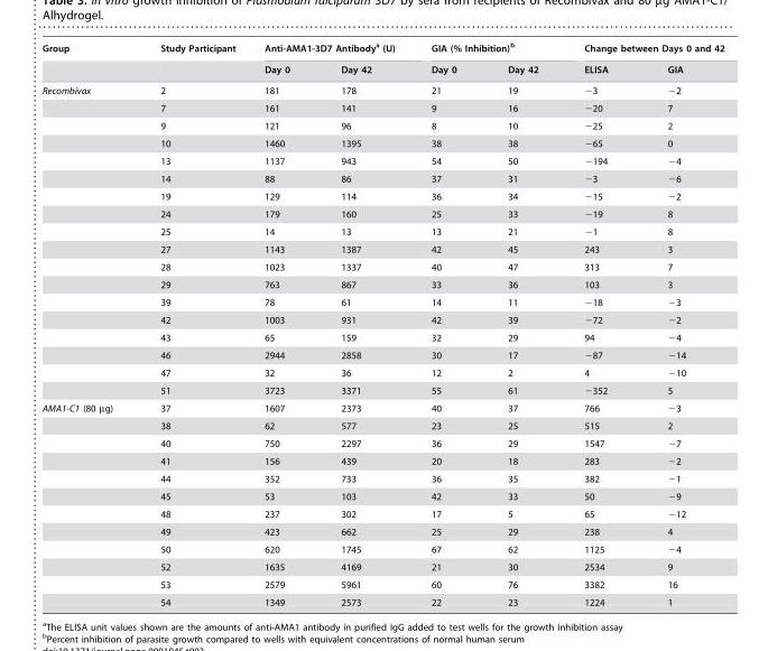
<table><thead><tr><td rowspan="2">Group</td><td rowspan="2">Study Participant</td><td colspan="2">Anti-AMA1-3D7 Antibody<sup>a</sup> (U)</td><td colspan="2">GIA (% Inhibition)<sup>b</sup></td><td colspan="2">Change between Days 0 and 42</td></tr><tr><td>Day 0</td><td>Day 42</td><td>Day 0</td><td>Day 42</td><td>ELISA</td><td>GIA</td></tr></thead><tbody><tr><td rowspan="18">Recombivax</td><td>2</td><td>181</td><td>178</td><td>21</td><td>19</td><td>−3</td><td>−2</td></tr><tr><td>7</td><td>161</td><td>141</td><td>9</td><td>16</td><td>−20</td><td>7</td></tr><tr><td>9</td><td>121</td><td>96</td><td>8</td><td>10</td><td>−25</td><td>2</td></tr><tr><td>10</td><td>1460</td><td>1395</td><td>38</td><td>38</td><td>−65</td><td>0</td></tr><tr><td>13</td><td>1137</td><td>943</td><td>54</td><td>50</td><td>−194</td><td>−4</td></tr><tr><td>14</td><td>88</td><td>86</td><td>37</td><td>31</td><td>−3</td><td>−6</td></tr><tr><td>19</td><td>129</td><td>114</td><td>36</td><td>34</td><td>−15</td><td>−2</td></tr><tr><td>24</td><td>179</td><td>160</td><td>25</td><td>33</td><td>−19</td><td>8</td></tr><tr><td>25</td><td>14</td><td>13</td><td>13</td><td>21</td><td>−1</td><td>8</td></tr><tr><td>27</td><td>1143</td><td>1387</td><td>42</td><td>45</td><td>243</td><td>3</td></tr><tr><td>28</td><td>1023</td><td>1337</td><td>40</td><td>47</td><td>313</td><td>7</td></tr><tr><td>29</td><td>763</td><td>867</td><td>33</td><td>36</td><td>103</td><td>3</td></tr><tr><td>39</td><td>78</td><td>61</td><td>14</td><td>11</td><td>−18</td><td>−3</td></tr><tr><td>42</td><td>1003</td><td>931</td><td>42</td><td>39</td><td>−72</td><td>−2</td></tr><tr><td>43</td><td>65</td><td>159</td><td>32</td><td>29</td><td>94</td><td>−4</td></tr><tr><td>46</td><td>2944</td><td>2858</td><td>30</td><td>17</td><td>−87</td><td>−14</td></tr><tr><td>47</td><td>32</td><td>36</td><td>12</td><td>2</td><td>4</td><td>−10</td></tr><tr><td>51</td><td>3723</td><td>3371</td><td>55</td><td>61</td><td>−352</td><td>5</td></tr><tr><td rowspan="12">AMA1-C1 (80 µg)</td><td>37</td><td>1607</td><td>2373</td><td>40</td><td>37</td><td>766</td><td>−3</td></tr><tr><td>38</td><td>62</td><td>577</td><td>23</td><td>25</td><td>515</td><td>2</td></tr><tr><td>40</td><td>750</td><td>2297</td><td>36</td><td>29</td><td>1547</td><td>−7</td></tr><tr><td>41</td><td>156</td><td>439</td><td>20</td><td>18</td><td>283</td><td>−2</td></tr><tr><td>44</td><td>352</td><td>733</td><td>36</td><td>35</td><td>382</td><td>−1</td></tr><tr><td>45</td><td>53</td><td>103</td><td>42</td><td>33</td><td>50</td><td>−9</td></tr><tr><td>48</td><td>237</td><td>302</td><td>17</td><td>5</td><td>65</td><td>−12</td></tr><tr><td>49</td><td>423</td><td>662</td><td>25</td><td>29</td><td>238</td><td>4</td></tr><tr><td>50</td><td>620</td><td>1745</td><td>67</td><td>62</td><td>1125</td><td>−4</td></tr><tr><td>52</td><td>1635</td><td>4169</td><td>21</td><td>30</td><td>2534</td><td>9</td></tr><tr><td>53</td><td>2579</td><td>5961</td><td>60</td><td>76</td><td>3382</td><td>16</td></tr><tr><td>54</td><td>1349</td><td>2573</td><td>22</td><td>23</td><td>1224</td><td>1</td></tr></tbody></table>